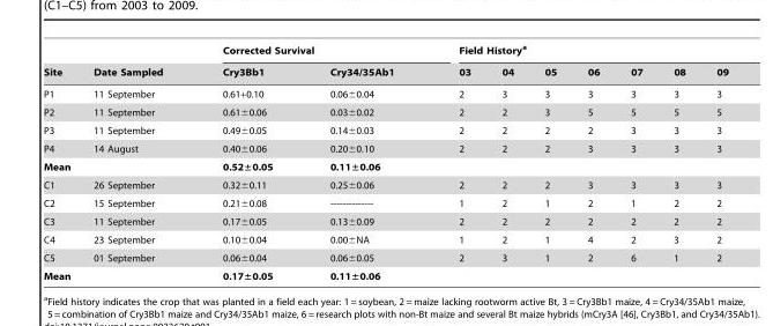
<table><thead><tr><td rowspan="2">Site</td><td rowspan="2">Date Sampled</td><td colspan="2">Corrected Survival</td><td colspan="7">Field History<sup>a</sup></td></tr><tr><td>Cry3Bb1</td><td>Cry34/35Ab1</td><td>03</td><td>04</td><td>05</td><td>06</td><td>07</td><td>08</td><td>09</td></tr></thead><tbody><tr><td>P1</td><td>11 September</td><td>0.61+0.10</td><td>0.06±0.04</td><td>2</td><td>3</td><td>3</td><td>3</td><td>3</td><td>3</td><td>3</td></tr><tr><td>P2</td><td>11 September</td><td>0.61±0.06</td><td>0.03±0.02</td><td>2</td><td>2</td><td>3</td><td>5</td><td>5</td><td>5</td><td>5</td></tr><tr><td>P3</td><td>11 September</td><td>0.49±0.05</td><td>0.14±0.03</td><td>2</td><td>2</td><td>2</td><td>2</td><td>3</td><td>3</td><td>3</td></tr><tr><td>P4</td><td>14 August</td><td>0.40±0.06</td><td>0.20±0.10</td><td>2</td><td>2</td><td>2</td><td>3</td><td>3</td><td>3</td><td>3</td></tr><tr><td>Mean</td><td></td><td>0.52±0.05</td><td>0.11±0.06</td><td></td><td></td><td></td><td></td><td></td><td></td><td></td></tr><tr><td>C1</td><td>26 September</td><td>0.32±0.11</td><td>0.25±0.06</td><td>2</td><td>2</td><td>2</td><td>3</td><td>3</td><td>3</td><td>3</td></tr><tr><td>C2</td><td>15 September</td><td>0.21±0.08</td><td>--------------</td><td>1</td><td>2</td><td>1</td><td>2</td><td>1</td><td>2</td><td>2</td></tr><tr><td>C3</td><td>11 September</td><td>0.17±0.05</td><td>0.13±0.09</td><td>2</td><td>2</td><td>2</td><td>2</td><td>2</td><td>2</td><td>2</td></tr><tr><td>C4</td><td>23 September</td><td>0.10±0.04</td><td>0.00±NA</td><td>1</td><td>2</td><td>1</td><td>4</td><td>2</td><td>3</td><td>2</td></tr><tr><td>C5</td><td>01 September</td><td>0.06±0.04</td><td>0.06±0.05</td><td>2</td><td>3</td><td>1</td><td>2</td><td>6</td><td>1</td><td>2</td></tr><tr><td>Mean</td><td></td><td>0.17±0.05</td><td>0.11±0.06</td><td></td><td></td><td></td><td></td><td></td><td></td><td></td></tr></tbody></table>